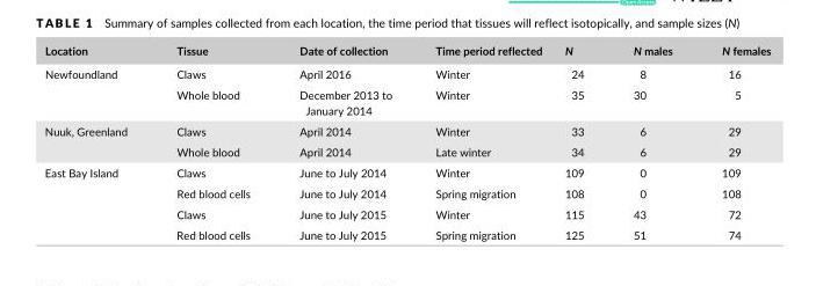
<table><thead><tr><td>Location</td><td>Tissue</td><td>Date of collection</td><td>Time period reflected</td><td>N</td><td>N males</td><td>N females</td></tr></thead><tbody><tr><td rowspan="2">Newfoundland</td><td>Claws</td><td>April 2016</td><td>Winter</td><td>24</td><td>8</td><td>16</td></tr><tr><td>Whole blood</td><td>December 2013 to January 2014</td><td>Winter</td><td>35</td><td>30</td><td>5</td></tr><tr><td rowspan="2">Nuuk, Greenland</td><td>Claws</td><td>April 2014</td><td>Winter</td><td>33</td><td>6</td><td>29</td></tr><tr><td>Whole blood</td><td>April 2014</td><td>Late winter</td><td>34</td><td>6</td><td>29</td></tr><tr><td rowspan="4">East Bay Island</td><td>Claws</td><td>June to July 2014</td><td>Winter</td><td>109</td><td>0</td><td>109</td></tr><tr><td>Red blood cells</td><td>June to July 2014</td><td>Spring migration</td><td>108</td><td>0</td><td>108</td></tr><tr><td>Claws</td><td>June to July 2015</td><td>Winter</td><td>115</td><td>43</td><td>72</td></tr><tr><td>Red blood cells</td><td>June to July 2015</td><td>Spring migration</td><td>125</td><td>51</td><td>74</td></tr></tbody></table>